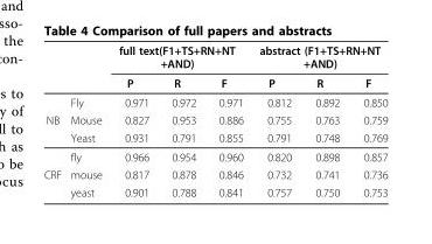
<table><thead><tr><td rowspan="2"></td><td rowspan="2"></td><td colspan="3">full text(F1+TS+RN+NT +AND)</td><td colspan="3">abstract (F1+TS+RN+NT +AND)</td></tr><tr><td>P</td><td>R</td><td>F</td><td>P</td><td>R</td><td>F</td></tr></thead><tbody><tr><td></td><td>Fly</td><td>0.971</td><td>0.972</td><td>0.971</td><td>0.812</td><td>0.892</td><td>0.850</td></tr><tr><td rowspan="3">NB</td><td>Mouse</td><td>0.827</td><td>0.953</td><td>0.886</td><td>0.755</td><td>0.763</td><td>0.759</td></tr><tr><td>Yeast</td><td>0.931</td><td>0.791</td><td>0.855</td><td>0.791</td><td>0.748</td><td>0.769</td></tr><tr><td>fly</td><td>0.966</td><td>0.954</td><td>0.960</td><td>0.820</td><td>0.898</td><td>0.857</td></tr><tr><td rowspan="2">CRF</td><td>mouse</td><td>0.817</td><td>0.878</td><td>0.846</td><td>0.732</td><td>0.741</td><td>0.736</td></tr><tr><td>yeast</td><td>0.901</td><td>0.788</td><td>0.841</td><td>0.757</td><td>0.750</td><td>0.753</td></tr></tbody></table>